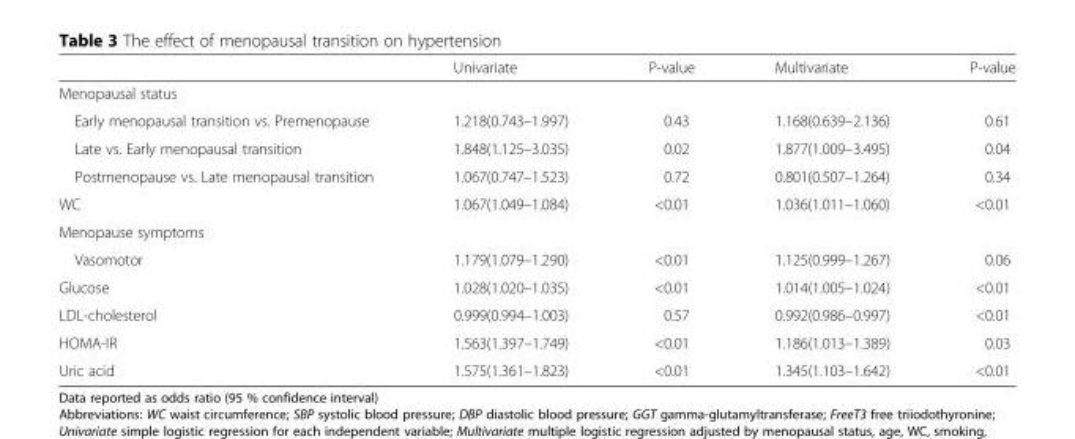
<table><thead><tr><td></td><td>Univariate</td><td>P-value</td><td>Multivariate</td><td>P-value</td></tr></thead><tbody><tr><td colspan="5">Menopausal status</td></tr><tr><td>Early menopausal transition vs. Premenopause</td><td>1.218(0.743–1.997)</td><td>0.43</td><td>1.168(0.639–2.136)</td><td>0.61</td></tr><tr><td>Late vs. Early menopausal transition</td><td>1.848(1.125–3.035)</td><td>0.02</td><td>1.877(1.009–3.495)</td><td>0.04</td></tr><tr><td>Postmenopause vs. Late menopausal transition</td><td>1.067(0.747–1.523)</td><td>0.72</td><td>0.801(0.507–1.264)</td><td>0.34</td></tr><tr><td>WC</td><td>1.067(1.049–1.084)</td><td>&lt;0.01</td><td>1.036(1.011–1.060)</td><td>&lt;0.01</td></tr><tr><td colspan="5">Menopause symptoms</td></tr><tr><td>Vasomotor</td><td>1.179(1.079–1.290)</td><td>&lt;0.01</td><td>1.125(0.999–1.267)</td><td>0.06</td></tr><tr><td>Glucose</td><td>1.028(1.020–1.035)</td><td>&lt;0.01</td><td>1.014(1.005–1.024)</td><td>&lt;0.01</td></tr><tr><td>LDL-cholesterol</td><td>0.999(0.994–1.003)</td><td>0.57</td><td>0.992(0.986–0.997)</td><td>&lt;0.01</td></tr><tr><td>HOMA-IR</td><td>1.563(1.397–1.749)</td><td>&lt;0.01</td><td>1.186(1.013–1.389)</td><td>0.03</td></tr><tr><td>Uric acid</td><td>1.575(1.361–1.823)</td><td>&lt;0.01</td><td>1.345(1.103–1.642)</td><td>&lt;0.01</td></tr></tbody></table>